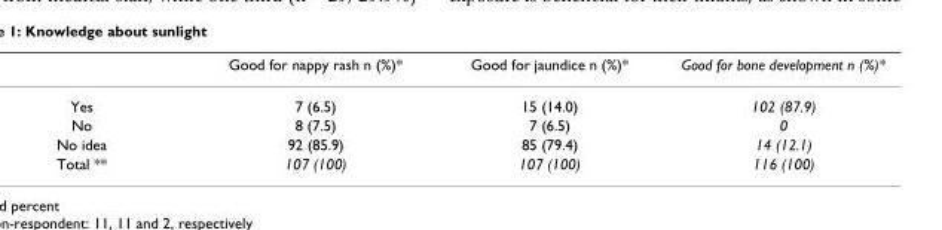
<table><thead><tr><td></td><td>Good for nappy rash n (%)*</td><td>Good for jaundice n (%)*</td><td>Good for bone development n (%)*</td></tr></thead><tbody><tr><td>Yes</td><td>7 (6.5)</td><td>15 (14.0)</td><td>102 (87.9)</td></tr><tr><td>No</td><td>8 (7.5)</td><td>7 (6.5)</td><td>0</td></tr><tr><td>No idea</td><td>92 (85.9)</td><td>85 (79.4)</td><td>14 (12.1)</td></tr><tr><td>Total **</td><td>107 (100)</td><td>107 (100)</td><td>116 (100)</td></tr></tbody></table>